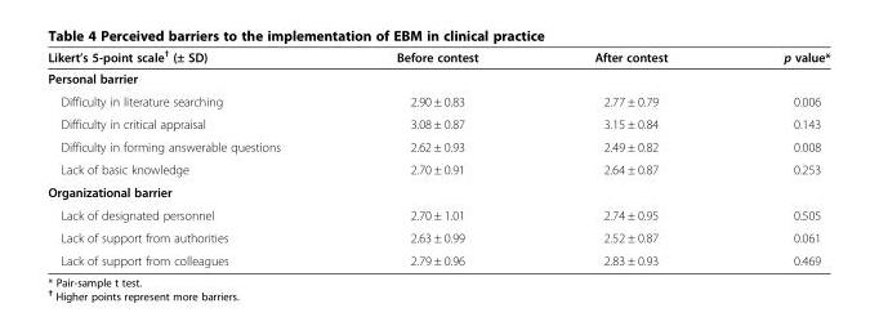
<table><thead><tr><td>Likert’s 5-point scale<sup>†</sup> (± SD)</td><td>Before contest</td><td>After contest</td><td>p value*</td></tr></thead><tbody><tr><td colspan="4">Personal barrier</td></tr><tr><td>Difficulty in literature searching</td><td>2.90 ± 0.83</td><td>2.77 ± 0.79</td><td>0.006</td></tr><tr><td>Difficulty in critical appraisal</td><td>3.08 ± 0.87</td><td>3.15 ± 0.84</td><td>0.143</td></tr><tr><td>Difficulty in forming answerable questions</td><td>2.62 ± 0.93</td><td>2.49 ± 0.82</td><td>0.008</td></tr><tr><td>Lack of basic knowledge</td><td>2.70 ± 0.91</td><td>2.64 ± 0.87</td><td>0.253</td></tr><tr><td colspan="4">Organizational barrier</td></tr><tr><td>Lack of designated personnel</td><td>2.70 ± 1.01</td><td>2.74 ± 0.95</td><td>0.505</td></tr><tr><td>Lack of support from authorities</td><td>2.63 ± 0.99</td><td>2.52 ± 0.87</td><td>0.061</td></tr><tr><td>Lack of support from colleagues</td><td>2.79 ± 0.96</td><td>2.83 ± 0.93</td><td>0.469</td></tr></tbody></table>